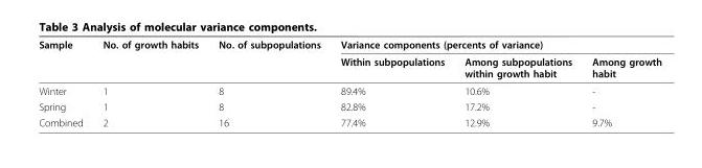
<table><thead><tr><td rowspan="2">Sample</td><td rowspan="2">No. of growth habits</td><td rowspan="2">No. of subpopulations</td><td colspan="3">Variance components (percents of variance)</td></tr><tr><td>Within subpopulations</td><td>Among subpopulations within growth habit</td><td>Among growth habit</td></tr></thead><tbody><tr><td>Winter</td><td>1</td><td>8</td><td>89.4%</td><td>10.6%</td><td>-</td></tr><tr><td>Spring</td><td>1</td><td>8</td><td>82.8%</td><td>17.2%</td><td>-</td></tr><tr><td>Combined</td><td>2</td><td>16</td><td>77.4%</td><td>12.9%</td><td>9.7%</td></tr></tbody></table>